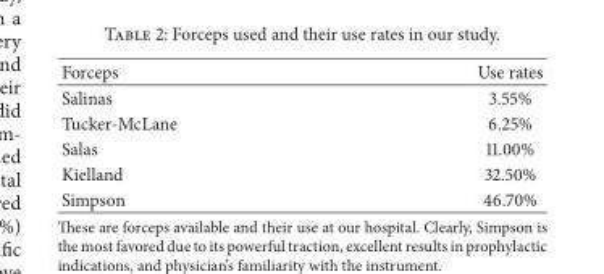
<table><thead><tr><td>Forceps</td><td>Use rates</td></tr></thead><tbody><tr><td>Salinas</td><td>3.55%</td></tr><tr><td>Tucker-McLane</td><td>6.25%</td></tr><tr><td>Salas</td><td>11.00%</td></tr><tr><td>Kielland</td><td>32.50%</td></tr><tr><td>Simpson</td><td>46.70%</td></tr></tbody></table>